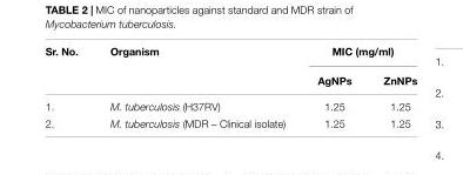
<table><thead><tr><td rowspan="2">Sr. No.</td><td rowspan="2">Organism</td><td colspan="2">MIC (mg/ml)</td></tr><tr><td>AgNPs</td><td>ZnNPs</td></tr></thead><tbody><tr><td>1.</td><td>M. tuberculosis (H37RV)</td><td>1.25</td><td>1.25</td></tr><tr><td>2.</td><td>M. tuberculosis (MDR – Clinical isolate)</td><td>1.25</td><td>1.25</td></tr></tbody></table>